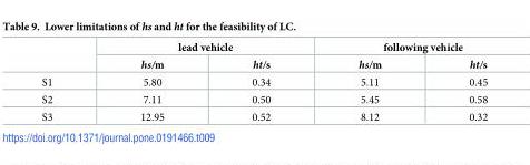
<table><thead><tr><td rowspan="2"></td><td colspan="2">lead vehicle</td><td colspan="2">following vehicle</td></tr><tr><td>hs/m</td><td>ht/s</td><td>hs/m</td><td>ht/s</td></tr></thead><tbody><tr><td>S1</td><td>5.80</td><td>0.34</td><td>5.11</td><td>0.45</td></tr><tr><td>S2</td><td>7.11</td><td>0.50</td><td>5.45</td><td>0.58</td></tr><tr><td>S3</td><td>12.95</td><td>0.52</td><td>8.12</td><td>0.32</td></tr></tbody></table>